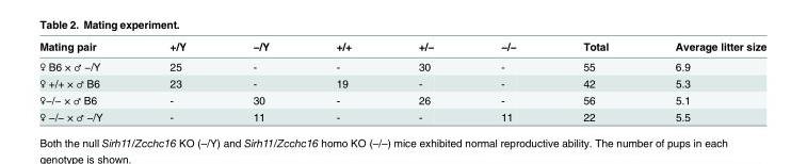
<table><thead><tr><td>Mating pair</td><td>+/Y</td><td>−/Y</td><td>+/+</td><td>+/−</td><td>−/−</td><td>Total</td><td>Average litter size</td></tr></thead><tbody><tr><td>♀ B6 × ♂ −/Y</td><td>25</td><td>-</td><td>-</td><td>30</td><td>-</td><td>55</td><td>6.9</td></tr><tr><td>♀ +/+ × ♂ B6</td><td>23</td><td>-</td><td>19</td><td>-</td><td>-</td><td>42</td><td>5.3</td></tr><tr><td>♀−/− × ♂ B6</td><td>-</td><td>30</td><td>-</td><td>26</td><td>-</td><td>56</td><td>5.1</td></tr><tr><td>♀ −/− × ♂ −/Y</td><td>-</td><td>11</td><td>-</td><td>-</td><td>11</td><td>22</td><td>5.5</td></tr></tbody></table>